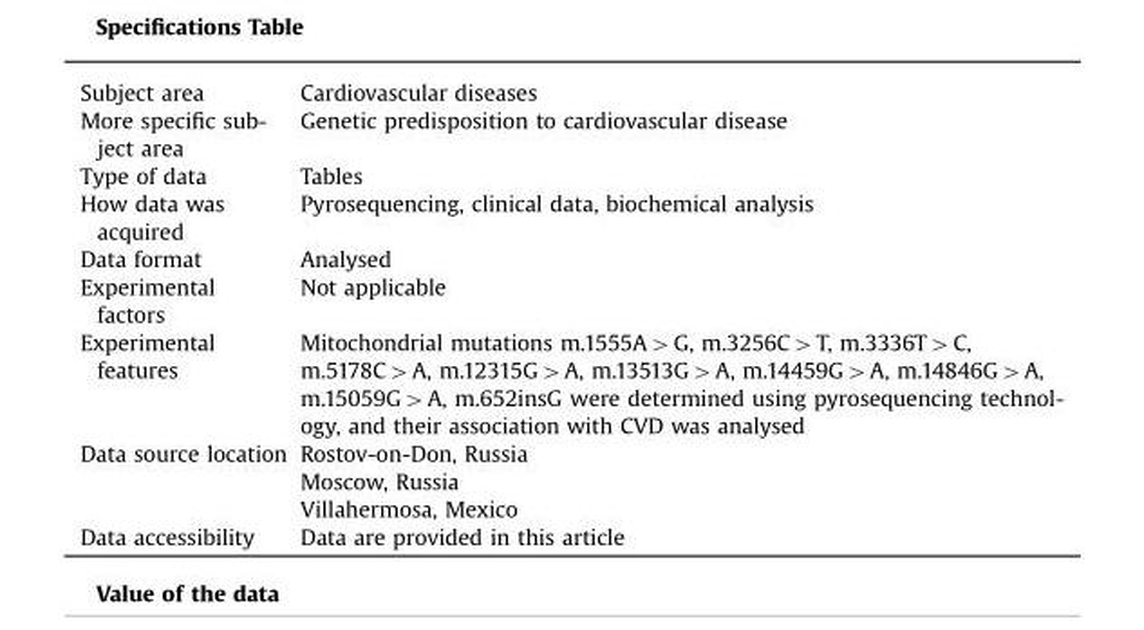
<table><tbody><tr><td>Subject area</td><td>Cardiovascular diseases</td></tr><tr><td>More specific sub- ject area</td><td>Genetic predisposition to cardiovascular disease</td></tr><tr><td>Type of data</td><td>Tables</td></tr><tr><td>How data was acquired</td><td>Pyrosequencing, clinical data, biochemical analysis</td></tr><tr><td>Data format</td><td>Analysed</td></tr><tr><td>Experimental factors</td><td>Not applicable</td></tr><tr><td>Experimental features</td><td>Mitochondrial mutations m.1555A4G, m.3256C4T, m.3336T4C, m.5178C4A, m.12315G4A, m.13513G4A, m.14459G4A, m.14846G4A, m.15059G4A, m.652insG were determined using pyrosequencing technol- ogy, and their association with CVD was analysed</td></tr><tr><td rowspan="3">Data source location</td><td>Rostov-on-Don, Russia</td></tr><tr><td>Moscow, Russia</td></tr><tr><td>Villahermosa, Mexico</td></tr><tr><td>Data accessibility</td><td>Data are provided in this article</td></tr></tbody></table>